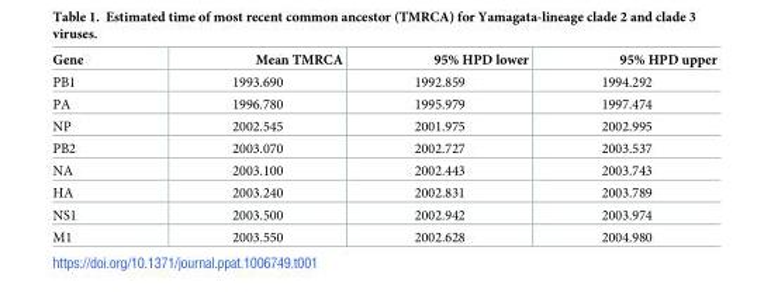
<table><thead><tr><td>Gene</td><td>Mean TMRCA</td><td>95% HPD lower</td><td>95% HPD upper</td></tr></thead><tbody><tr><td>PB1</td><td>1993.690</td><td>1992.859</td><td>1994.292</td></tr><tr><td>PA</td><td>1996.780</td><td>1995.979</td><td>1997.474</td></tr><tr><td>NP</td><td>2002.545</td><td>2001.975</td><td>2002.995</td></tr><tr><td>PB2</td><td>2003.070</td><td>2002.727</td><td>2003.537</td></tr><tr><td>NA</td><td>2003.100</td><td>2002.443</td><td>2003.743</td></tr><tr><td>HA</td><td>2003.240</td><td>2002.831</td><td>2003.789</td></tr><tr><td>NS1</td><td>2003.500</td><td>2002.942</td><td>2003.974</td></tr><tr><td>M1</td><td>2003.550</td><td>2002.628</td><td>2004.980</td></tr></tbody></table>